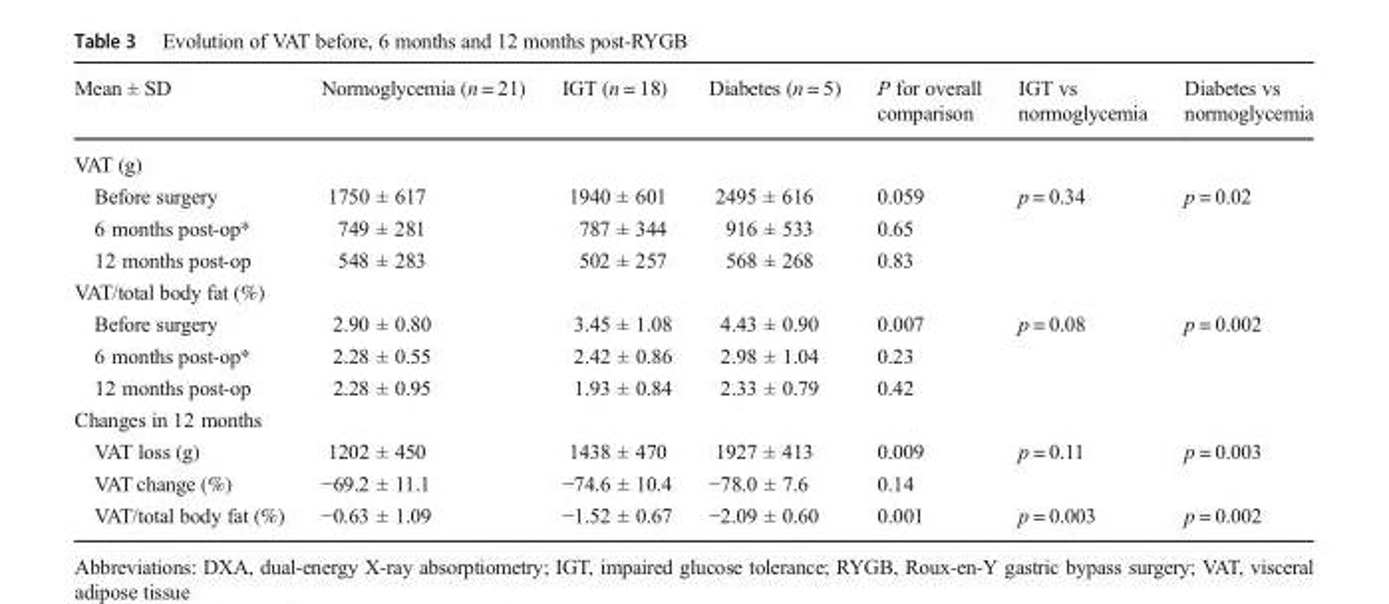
<table><thead><tr><td>Mean ± SD</td><td>Normoglycemia (n = 21)</td><td>IGT (n = 18)</td><td>Diabetes (n = 5)</td><td>P for overall comparison</td><td>IGT vs normoglycemia</td><td>Diabetes vs normoglycemia</td></tr></thead><tbody><tr><td colspan="7">VAT (g)</td></tr><tr><td>Before surgery</td><td>1750 ± 617</td><td>1940 ± 601</td><td>2495 ± 616</td><td>0.059</td><td>p = 0.34</td><td>p = 0.02</td></tr><tr><td>6 months post-op*</td><td>749 ± 281</td><td>787 ± 344</td><td>916 ± 533</td><td>0.65</td><td></td><td></td></tr><tr><td>12 months post-op</td><td>548 ± 283</td><td>502 ± 257</td><td>568 ± 268</td><td>0.83</td><td></td><td></td></tr><tr><td colspan="7">VAT/total body fat (%)</td></tr><tr><td>Before surgery</td><td>2.90 ± 0.80</td><td>3.45 ± 1.08</td><td>4.43 ± 0.90</td><td>0.007</td><td>p = 0.08</td><td>p = 0.002</td></tr><tr><td>6 months post-op*</td><td>2.28 ± 0.55</td><td>2.42 ± 0.86</td><td>2.98 ± 1.04</td><td>0.23</td><td></td><td></td></tr><tr><td>12 months post-op</td><td>2.28 ± 0.95</td><td>1.93 ± 0.84</td><td>2.33 ± 0.79</td><td>0.42</td><td></td><td></td></tr><tr><td colspan="7">Changes in 12 months</td></tr><tr><td>VAT loss (g)</td><td>1202 ± 450</td><td>1438 ± 470</td><td>1927 ± 413</td><td>0.009</td><td>p = 0.11</td><td>p = 0.003</td></tr><tr><td>VAT change (%)</td><td>−69.2 ± 11.1</td><td>−74.6 ± 10.4</td><td>−78.0 ± 7.6</td><td>0.14</td><td></td><td></td></tr><tr><td>VAT/total body fat (%)</td><td>−0.63 ± 1.09</td><td>−1.52 ± 0.67</td><td>−2.09 ± 0.60</td><td>0.001</td><td>p = 0.003</td><td>p = 0.002</td></tr></tbody></table>